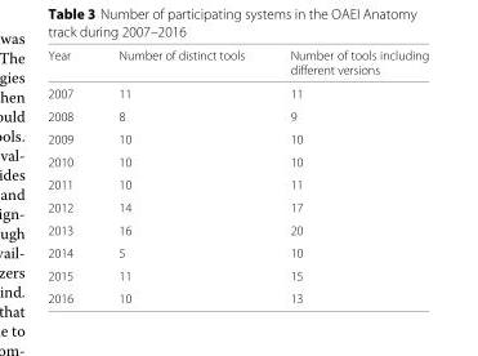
<table><thead><tr><td>Year</td><td>Number of distinct tools</td><td>Number of tools including different versions</td></tr></thead><tbody><tr><td>2007</td><td>11</td><td>11</td></tr><tr><td>2008</td><td>8</td><td>9</td></tr><tr><td>2009</td><td>10</td><td>10</td></tr><tr><td>2010</td><td>10</td><td>10</td></tr><tr><td>2011</td><td>10</td><td>11</td></tr><tr><td>2012</td><td>14</td><td>17</td></tr><tr><td>2013</td><td>16</td><td>20</td></tr><tr><td>2014</td><td>5</td><td>10</td></tr><tr><td>2015</td><td>11</td><td>15</td></tr><tr><td>2016</td><td>10</td><td>13</td></tr></tbody></table>